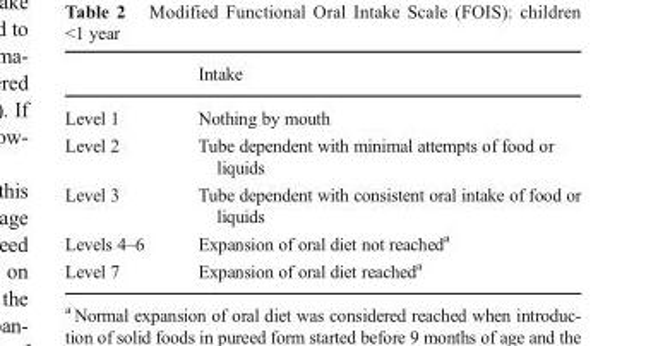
<table><thead><tr><td></td><td>Intake</td></tr></thead><tbody><tr><td>Level 1</td><td>Nothing by mouth</td></tr><tr><td>Level 2</td><td>Tube dependent with minimal attempts of food or liquids</td></tr><tr><td>Level 3</td><td>Tube dependent with consistent oral intake of food or liquids</td></tr><tr><td>Levels 4–6</td><td>Expansion of oral diet not reached<sup>a</sup></td></tr><tr><td>Level 7</td><td>Expansion of oral diet reached<sup>a</sup></td></tr></tbody></table>